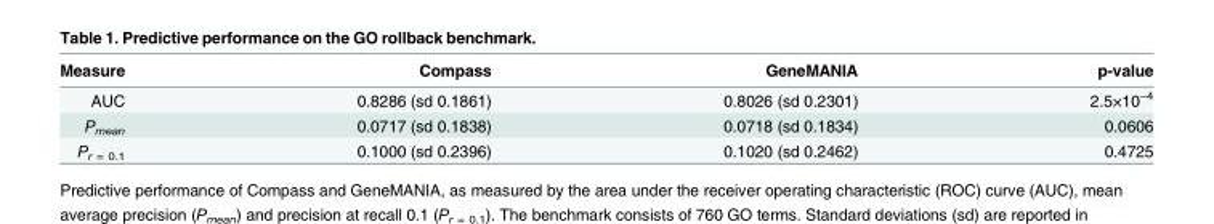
<table><thead><tr><td>Measure</td><td>Compass</td><td>GeneMANIA</td><td>p-value</td></tr></thead><tbody><tr><td>AUC</td><td>0.8286 (sd 0.1861)</td><td>0.8026 (sd 0.2301)</td><td>2.5×10<sup>−4</sup></td></tr><tr><td>P<sub>mean</sub></td><td>0.0717 (sd 0.1838)</td><td>0.0718 (sd 0.1834)</td><td>0.0606</td></tr><tr><td>P<sub>r = 0.1</sub></td><td>0.1000 (sd 0.2396)</td><td>0.1020 (sd 0.2462)</td><td>0.4725</td></tr></tbody></table>